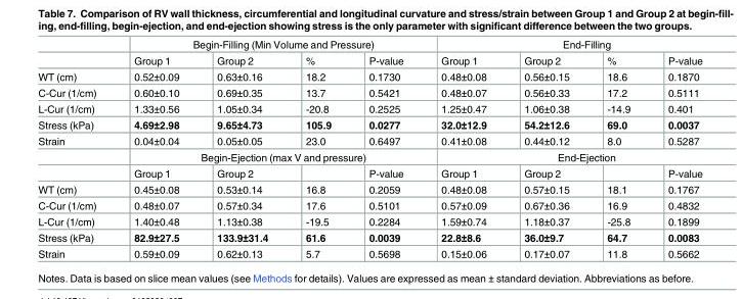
<table><thead><tr><td rowspan="2"></td><td colspan="4">Begin-Filling (Min Volume and Pressure)</td><td colspan="4">End-Filling</td></tr><tr><td>Group 1</td><td>Group 2</td><td>%</td><td>P-value</td><td>Group 1</td><td>Group 2</td><td>%</td><td>P-value</td></tr></thead><tbody><tr><td>WT (cm)</td><td>0.52±0.09</td><td>0.63±0.16</td><td>18.2</td><td>0.1730</td><td>0.48±0.08</td><td>0.56±0.15</td><td>18.6</td><td>0.1870</td></tr><tr><td>C-Cur (1/cm)</td><td>0.60±0.10</td><td>0.69±0.35</td><td>13.7</td><td>0.5421</td><td>0.48±0.07</td><td>0.56±0.33</td><td>17.2</td><td>0.5111</td></tr><tr><td>L-Cur (1/cm)</td><td>1.33±0.56</td><td>1.05±0.34</td><td>-20.8</td><td>0.2525</td><td>1.25±0.47</td><td>1.06±0.38</td><td>-14.9</td><td>0.401</td></tr><tr><td>Stress (kPa)</td><td>4.69±2.98</td><td>9.65±4.73</td><td>105.9</td><td>0.0277</td><td>32.0±12.9</td><td>54.2±12.6</td><td>69.0</td><td>0.0037</td></tr><tr><td rowspan="3">Strain</td><td>0.04±0.04</td><td>0.05±0.05</td><td>23.0</td><td>0.6497</td><td>0.41±0.08</td><td>0.44±0.12</td><td>8.0</td><td>0.5287</td></tr><tr><td colspan="4">Begin-Ejection (max V and pressure)</td><td colspan="4">End-Ejection</td></tr><tr><td>Group 1</td><td>Group 2</td><td></td><td>P-value</td><td>Group 1</td><td>Group 2</td><td></td><td>P-value</td></tr><tr><td>WT (cm)</td><td>0.45±0.08</td><td>0.53±0.14</td><td>16.8</td><td>0.2059</td><td>0.48±0.08</td><td>0.57±0.15</td><td>18.1</td><td>0.1767</td></tr><tr><td>C-Cur (1/cm)</td><td>0.48±0.07</td><td>0.57±0.34</td><td>17.6</td><td>0.5101</td><td>0.57±0.09</td><td>0.67±0.36</td><td>16.9</td><td>0.4832</td></tr><tr><td>L-Cur (1/cm)</td><td>1.40±0.48</td><td>1.13±0.38</td><td>-19.5</td><td>0.2284</td><td>1.59±0.74</td><td>1.18±0.37</td><td>-25.8</td><td>0.1899</td></tr><tr><td>Stress (kPa)</td><td>82.9±27.5</td><td>133.9±31.4</td><td>61.6</td><td>0.0039</td><td>22.8±8.6</td><td>36.0±9.7</td><td>64.7</td><td>0.0083</td></tr><tr><td>Strain</td><td>0.59±0.09</td><td>0.62±0.13</td><td>5.7</td><td>0.5698</td><td>0.15±0.06</td><td>0.17±0.07</td><td>11.8</td><td>0.5662</td></tr></tbody></table>